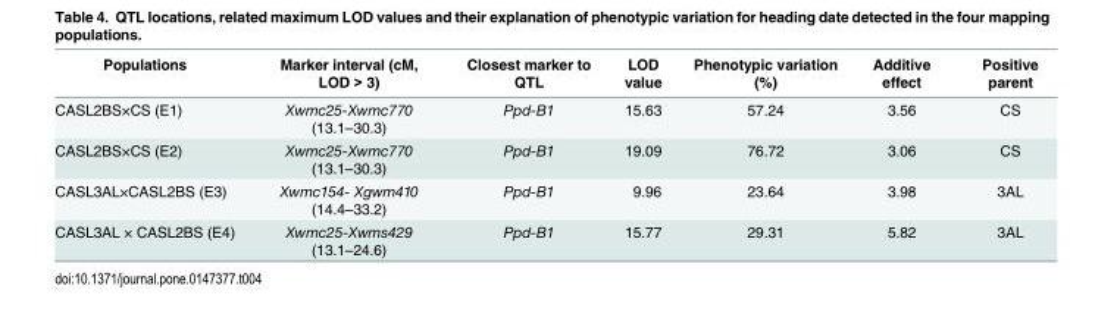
<table><thead><tr><td>Populations</td><td>Marker interval (cM, LOD &gt; 3)</td><td>Closest marker to QTL</td><td>LOD value</td><td>Phenotypic variation (%)</td><td>Additive effect</td><td>Positive parent</td></tr></thead><tbody><tr><td>CASL2BS×CS (E1)</td><td>Xwmc25-Xwmc770 (13.1–30.3)</td><td>Ppd-B1</td><td>15.63</td><td>57.24</td><td>3.56</td><td>CS</td></tr><tr><td>CASL2BS×CS (E2)</td><td>Xwmc25-Xwmc770 (13.1–30.3)</td><td>Ppd-B1</td><td>19.09</td><td>76.72</td><td>3.06</td><td>CS</td></tr><tr><td>CASL3AL×CASL2BS (E3)</td><td>Xwmc154- Xgwm410 (14.4–33.2)</td><td>Ppd-B1</td><td>9.96</td><td>23.64</td><td>3.98</td><td>3AL</td></tr><tr><td>CASL3AL × CASL2BS (E4)</td><td>Xwmc25-Xwms429 (13.1–24.6)</td><td>Ppd-B1</td><td>15.77</td><td>29.31</td><td>5.82</td><td>3AL</td></tr></tbody></table>